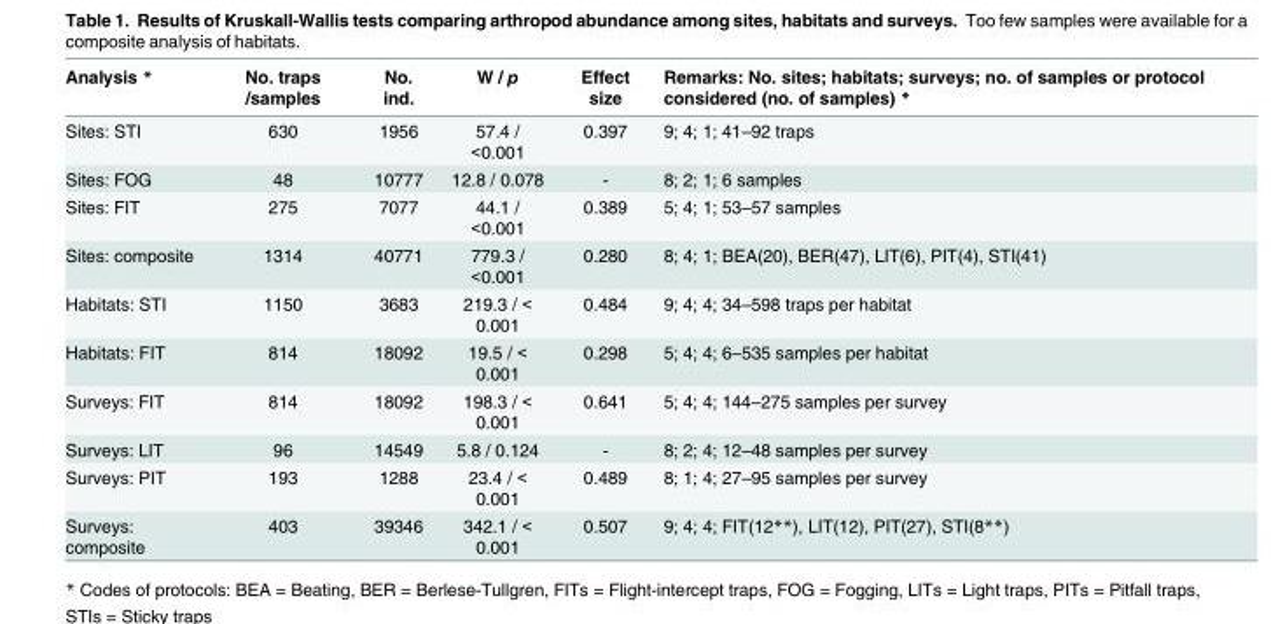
<table><thead><tr><td>Analysis *</td><td>No. traps /samples</td><td>No. ind.</td><td>W / p</td><td>Effect size</td><td>Remarks: No. sites; habitats; surveys; no. of samples or protocol considered (no. of samples) *</td></tr></thead><tbody><tr><td>Sites: STI</td><td>630</td><td>1956</td><td>57.4 / &lt;0.001</td><td>0.397</td><td>9; 4; 1; 41–92 traps</td></tr><tr><td>Sites: FOG</td><td>48</td><td>10777</td><td>12.8 / 0.078</td><td>-</td><td>8; 2; 1; 6 samples</td></tr><tr><td>Sites: FIT</td><td>275</td><td>7077</td><td>44.1 / &lt;0.001</td><td>0.389</td><td>5; 4; 1; 53–57 samples</td></tr><tr><td>Sites: composite</td><td>1314</td><td>40771</td><td>779.3 / &lt;0.001</td><td>0.280</td><td>8; 4; 1; BEA(20), BER(47), LIT(6), PIT(4), STI(41)</td></tr><tr><td>Habitats: STI</td><td>1150</td><td>3683</td><td>219.3 / &lt; 0.001</td><td>0.484</td><td>9; 4; 4; 34–598 traps per habitat</td></tr><tr><td>Habitats: FIT</td><td>814</td><td>18092</td><td>19.5 / &lt; 0.001</td><td>0.298</td><td>5; 4; 4; 6–535 samples per habitat</td></tr><tr><td>Surveys: FIT</td><td>814</td><td>18092</td><td>198.3 / &lt; 0.001</td><td>0.641</td><td>5; 4; 4; 144–275 samples per survey</td></tr><tr><td>Surveys: LIT</td><td>96</td><td>14549</td><td>5.8 / 0.124</td><td>-</td><td>8; 2; 4; 12–48 samples per survey</td></tr><tr><td>Surveys: PIT</td><td>193</td><td>1288</td><td>23.4 / &lt; 0.001</td><td>0.489</td><td>8; 1; 4; 27–95 samples per survey</td></tr><tr><td>Surveys: composite</td><td>403</td><td>39346</td><td>342.1 / &lt; 0.001</td><td>0.507</td><td>9; 4; 4; FIT(12**), LIT(12), PIT(27), STI(8**)</td></tr></tbody></table>